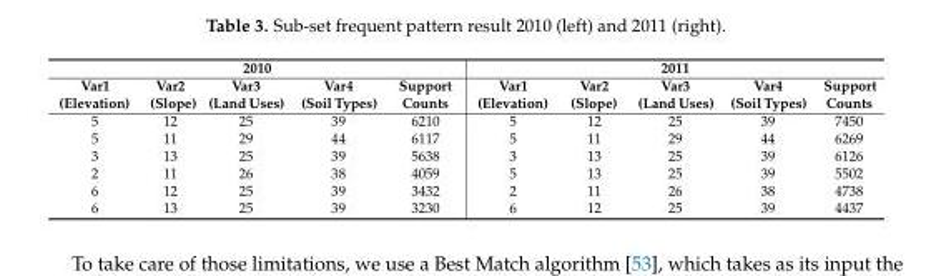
<table><thead><tr><td colspan="5">2010</td><td colspan="5">2011</td></tr><tr><td>Var1 (Elevation)</td><td>Var2 (Slope)</td><td>Var3 (Land Uses)</td><td>Var4 (Soil Types)</td><td>Support Counts</td><td>Var1 (Elevation)</td><td>Var2 (Slope)</td><td>Var3 (Land Uses)</td><td>Var4 (Soil Types)</td><td>Support Counts</td></tr></thead><tbody><tr><td>5</td><td>12</td><td>25</td><td>39</td><td>6210</td><td>5</td><td>12</td><td>25</td><td>39</td><td>7450</td></tr><tr><td>5</td><td>11</td><td>29</td><td>44</td><td>6117</td><td>5</td><td>11</td><td>29</td><td>44</td><td>6269</td></tr><tr><td>3</td><td>13</td><td>25</td><td>39</td><td>5638</td><td>3</td><td>13</td><td>25</td><td>39</td><td>6126</td></tr><tr><td>2</td><td>11</td><td>26</td><td>38</td><td>4059</td><td>5</td><td>13</td><td>25</td><td>39</td><td>5502</td></tr><tr><td>6</td><td>12</td><td>25</td><td>39</td><td>3432</td><td>2</td><td>11</td><td>26</td><td>38</td><td>4738</td></tr><tr><td>6</td><td>13</td><td>25</td><td>39</td><td>3230</td><td>6</td><td>12</td><td>25</td><td>39</td><td>4437</td></tr></tbody></table>